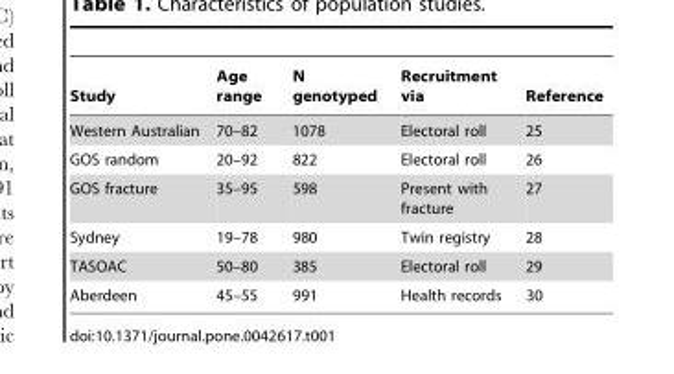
<table><thead><tr><td>Study</td><td>Age range</td><td>N genotyped</td><td>Recruitment via</td><td>Reference</td></tr></thead><tbody><tr><td>Western Australian</td><td>70–82</td><td>1078</td><td>Electoral roll</td><td>25</td></tr><tr><td>GOS random</td><td>20–92</td><td>822</td><td>Electoral roll</td><td>26</td></tr><tr><td>GOS fracture</td><td>35–95</td><td>598</td><td>Present with fracture</td><td>27</td></tr><tr><td>Sydney</td><td>19–78</td><td>980</td><td>Twin registry</td><td>28</td></tr><tr><td>TASOAC</td><td>50–80</td><td>385</td><td>Electoral roll</td><td>29</td></tr><tr><td>Aberdeen</td><td>45–55</td><td>991</td><td>Health records</td><td>30</td></tr></tbody></table>